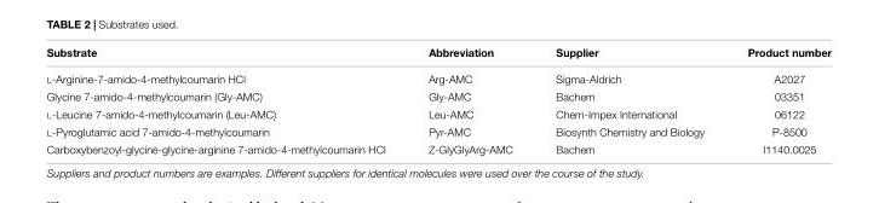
<table><thead><tr><td>Substrate</td><td>Abbreviation</td><td>Supplier</td><td>Product number</td></tr></thead><tbody><tr><td>L-Arginine-7-amido-4-methylcoumarin HCl</td><td>Arg-AMC</td><td>Sigma-Aldrich</td><td>A2027</td></tr><tr><td>Glycine 7-amido-4-methylcoumarin (Gly-AMC)</td><td>Gly-AMC</td><td>Bachem</td><td>03351</td></tr><tr><td>L-Leucine 7-amido-4-methylcoumarin (Leu-AMC)</td><td>Leu-AMC</td><td>Chem-Impex International</td><td>06122</td></tr><tr><td>L-Pyroglutamic acid 7-amido-4-methylcoumarin</td><td>Pyr-AMC</td><td>Biosynth Chemistry and Biology</td><td>P-8500</td></tr><tr><td>Carboxybenzoyl-glycine-glycine-arginine 7-amido-4-methylcoumarin HCl</td><td>Z-GlyGlyArg-AMC</td><td>Bachem</td><td>I1140.0025</td></tr></tbody></table>